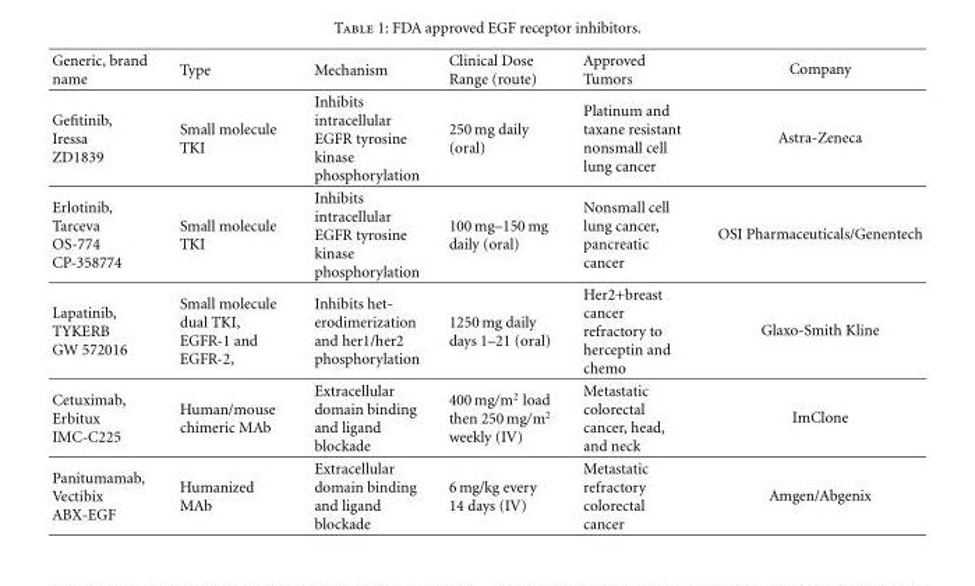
<table><thead><tr><td>Generic, brand name</td><td>Type</td><td>Mechanism</td><td>Clinical Dose Range (route)</td><td>Approved Tumors</td><td>Company</td></tr></thead><tbody><tr><td>Gefitinib, Iressa ZD1839</td><td>Small molecule TKI</td><td>Inhibits intracellular EGFR tyrosine kinase phosphorylation</td><td>250 mg daily (oral)</td><td>Platinum and taxane resistant nonsmall cell lung cancer</td><td>Astra-Zeneca</td></tr><tr><td>Erlotinib, Tarceva OS-774 CP-358774</td><td>Small molecule TKI</td><td>Inhibits intracellular EGFR tyrosine kinase phosphorylation</td><td>100 mg–150 mg daily (oral)</td><td>Nonsmall cell lung cancer, pancreatic cancer</td><td>OSI Pharmaceuticals/Genentech</td></tr><tr><td>Lapatinib, TYKERB GW 572016</td><td>Small molecule dual TKI, EGFR-1 and EGFR-2,</td><td>Inhibits het- erodimerization and her1/her2 phosphorylation</td><td>1250 mg daily days 1–21 (oral)</td><td>Her2+breast cancer refractory to herceptin and chemo</td><td>Glaxo-Smith Kline</td></tr><tr><td>Cetuximab, Erbitux IMC-C225</td><td>Human/mouse chimeric MAb</td><td>Extracellular domain binding and ligand blockade</td><td>400 mg/m<sup>2</sup> load then 250 mg/m<sup>2</sup> weekly (IV)</td><td>Metastatic colorectal cancer, head, and neck</td><td>ImClone</td></tr><tr><td>Panitumamab, Vectibix ABX-EGF</td><td>Humanized MAb</td><td>Extracellular domain binding and ligand blockade</td><td>6 mg/kg every 14 days (IV)</td><td>Metastatic refractory colorectal cancer</td><td>Amgen/Abgenix</td></tr></tbody></table>